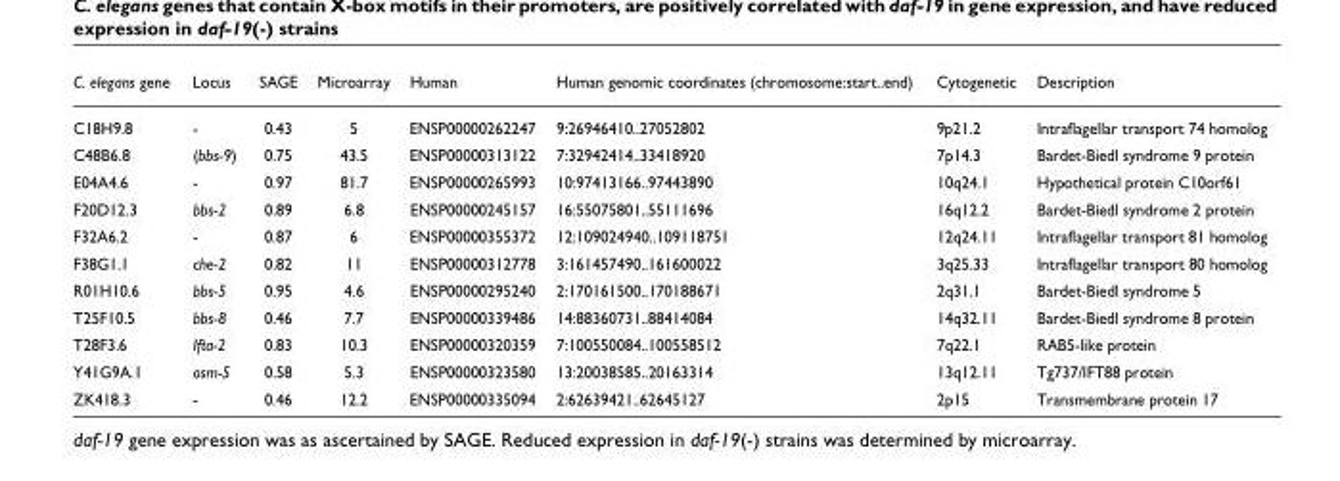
<table><thead><tr><td>C. elegans gene</td><td>Locus</td><td>SAGE</td><td>Microarray</td><td>Human</td><td>Human genomic coordinates (chromosome:start..end)</td><td>Cytogenetic</td><td>Description</td></tr></thead><tbody><tr><td>C18H9.8</td><td>-</td><td>0.43</td><td>5</td><td>ENSP00000262247</td><td>9:26946410..27052802</td><td>9p21.2</td><td>Intraflagellar transport 74 homolog</td></tr><tr><td>C48B6.8</td><td>(bbs-9)</td><td>0.75</td><td>43.5</td><td>ENSP00000313122</td><td>7:32942414..33418920</td><td>7p14.3</td><td>Bardet-Biedl syndrome 9 protein</td></tr><tr><td>E04A4.6</td><td>-</td><td>0.97</td><td>81.7</td><td>ENSP00000265993</td><td>10:97413166..97443890</td><td>10q24.1</td><td>Hypothetical protein C10orf61</td></tr><tr><td>F20D12.3</td><td>bbs-2</td><td>0.89</td><td>6.8</td><td>ENSP00000245157</td><td>16:55075801..55111696</td><td>16q12.2</td><td>Bardet-Biedl syndrome 2 protein</td></tr><tr><td>F32A6.2</td><td>-</td><td>0.87</td><td>6</td><td>ENSP00000355372</td><td>12:109024940..109118751</td><td>12q24.11</td><td>Intraflagellar transport 81 homolog</td></tr><tr><td>F38G1.1</td><td>che-2</td><td>0.82</td><td>11</td><td>ENSP00000312778</td><td>3:161457490..161600022</td><td>3q25.33</td><td>Intraflagellar transport 80 homolog</td></tr><tr><td>R01H10.6</td><td>bbs-5</td><td>0.95</td><td>4.6</td><td>ENSP00000295240</td><td>2:170161500..170188671</td><td>2q31.1</td><td>Bardet-Biedl syndrome 5</td></tr><tr><td>T25F10.5</td><td>bbs-8</td><td>0.46</td><td>7.7</td><td>ENSP00000339486</td><td>14:88360731..88414084</td><td>14q32.11</td><td>Bardet-Biedl syndrome 8 protein</td></tr><tr><td>T28F3.6</td><td>Ifta-2</td><td>0.83</td><td>10.3</td><td>ENSP00000320359</td><td>7:100550084..100558512</td><td>7q22.1</td><td>RAB5-like protein</td></tr><tr><td>Y41G9A.1</td><td>osm-5</td><td>0.58</td><td>5.3</td><td>ENSP00000323580</td><td>13:20038585..20163314</td><td>13q12.11</td><td>Tg737/IFT88 protein</td></tr><tr><td>ZK418.3</td><td>-</td><td>0.46</td><td>12.2</td><td>ENSP00000335094</td><td>2:62639421..62645127</td><td>2p15</td><td>Transmembrane protein 17</td></tr></tbody></table>